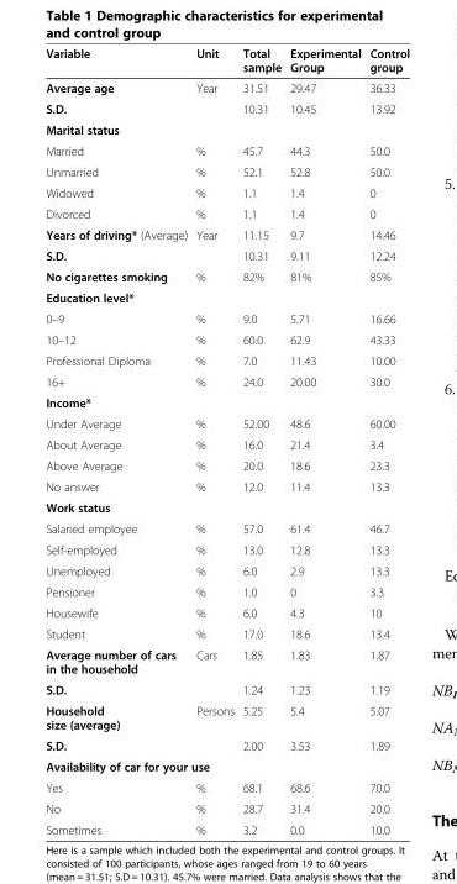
<table><thead><tr><td>Variable</td><td>Unit</td><td>Total sample</td><td>Experimental Group</td><td>Control group</td></tr></thead><tbody><tr><td>Average age</td><td>Year</td><td>31.51</td><td>29.47</td><td>36.33</td></tr><tr><td>S.D.</td><td></td><td>10.31</td><td>10.45</td><td>13.92</td></tr><tr><td colspan="5">Marital status</td></tr><tr><td>Married</td><td>%</td><td>45.7</td><td>44.3</td><td>50.0</td></tr><tr><td>Unmarried</td><td>%</td><td>52.1</td><td>52.8</td><td>50.0</td></tr><tr><td>Widowed</td><td>%</td><td>1.1</td><td>1.4</td><td>0</td></tr><tr><td>Divorced</td><td>%</td><td>1.1</td><td>1.4</td><td>0</td></tr><tr><td>Years of driving* (Average)</td><td>Year</td><td>11.15</td><td>9.7</td><td>14.46</td></tr><tr><td>S.D.</td><td></td><td>10.31</td><td>9.11</td><td>12.24</td></tr><tr><td>No cigarettes smoking</td><td>%</td><td>82%</td><td>81%</td><td>85%</td></tr><tr><td colspan="5">Education level*</td></tr><tr><td>0–9</td><td>%</td><td>9.0</td><td>5.71</td><td>16.66</td></tr><tr><td>10–12</td><td>%</td><td>60.0</td><td>62.9</td><td>43.33</td></tr><tr><td>Professional Diploma</td><td>%</td><td>7.0</td><td>11.43</td><td>10.00</td></tr><tr><td>16+</td><td>%</td><td>24.0</td><td>20.00</td><td>30.0</td></tr><tr><td colspan="5">Income*</td></tr><tr><td>Under Average</td><td>%</td><td>52.00</td><td>48.6</td><td>60.00</td></tr><tr><td>About Average</td><td>%</td><td>16.0</td><td>21.4</td><td>3.4</td></tr><tr><td>Above Average</td><td>%</td><td>20.0</td><td>18.6</td><td>23.3</td></tr><tr><td>No answer</td><td>%</td><td>12.0</td><td>11.4</td><td>13.3</td></tr><tr><td colspan="5">Work status</td></tr><tr><td>Salaried employee</td><td>%</td><td>57.0</td><td>61.4</td><td>46.7</td></tr><tr><td>Self-employed</td><td>%</td><td>13.0</td><td>12.8</td><td>13.3</td></tr><tr><td>Unemployed</td><td>%</td><td>6.0</td><td>2.9</td><td>13.3</td></tr><tr><td>Pensioner</td><td>%</td><td>1.0</td><td>0</td><td>3.3</td></tr><tr><td>Housewife</td><td>%</td><td>6.0</td><td>4.3</td><td>10</td></tr><tr><td>Student</td><td>%</td><td>17.0</td><td>18.6</td><td>13.4</td></tr><tr><td>Average number of cars in the household</td><td>Cars</td><td>1.85</td><td>1.83</td><td>1.87</td></tr><tr><td>S.D.</td><td></td><td>1.24</td><td>1.23</td><td>1.19</td></tr><tr><td>Household size (average)</td><td>Persons</td><td>5.25</td><td>5.4</td><td>5.07</td></tr><tr><td>S.D.</td><td></td><td>2.00</td><td>3.53</td><td>1.89</td></tr><tr><td colspan="5">Availability of car for your use</td></tr><tr><td>Yes</td><td>%</td><td>68.1</td><td>68.6</td><td>70.0</td></tr><tr><td>No</td><td>%</td><td>28.7</td><td>31.4</td><td>20.0</td></tr><tr><td>Sometimes</td><td>%</td><td>3.2</td><td>0.0</td><td>10.0</td></tr></tbody></table>